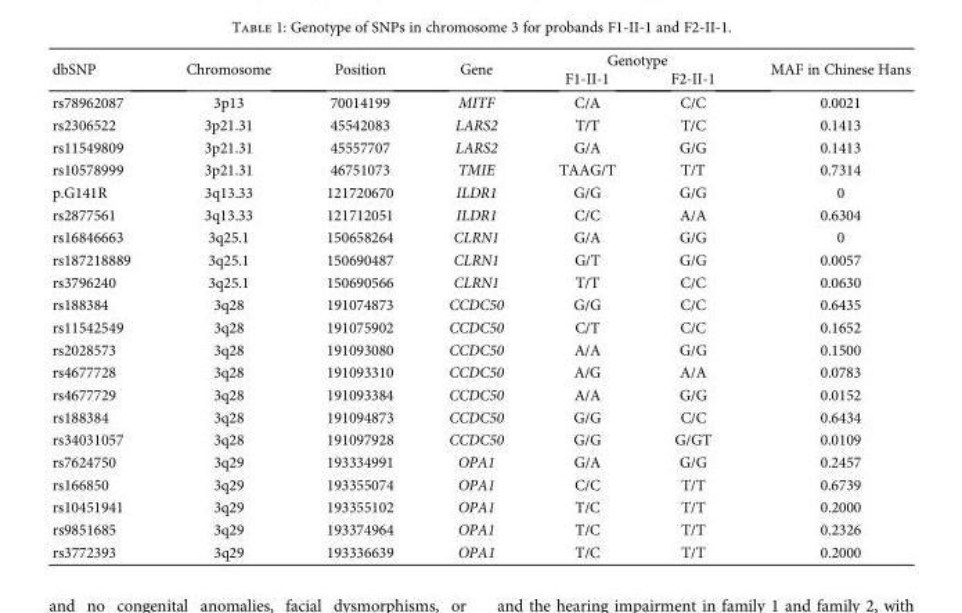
<table><thead><tr><td rowspan="2">dbSNP</td><td rowspan="2">Chromosome</td><td rowspan="2">Position</td><td rowspan="2">Gene</td><td colspan="2">Genotype</td><td rowspan="2">MAF in Chinese Hans</td></tr><tr><td>F1-II-1</td><td>F2-II-1</td></tr></thead><tbody><tr><td>rs78962087</td><td>3p13</td><td>70014199</td><td>MITF</td><td>C/A</td><td>C/C</td><td>0.0021</td></tr><tr><td>rs2306522</td><td>3p21.31</td><td>45542083</td><td>LARS2</td><td>T/T</td><td>T/C</td><td>0.1413</td></tr><tr><td>rs11549809</td><td>3p21.31</td><td>45557707</td><td>LARS2</td><td>G/A</td><td>G/G</td><td>0.1413</td></tr><tr><td>rs10578999</td><td>3p21.31</td><td>46751073</td><td>TMIE</td><td>TAAG/T</td><td>T/T</td><td>0.7314</td></tr><tr><td>p.G141R</td><td>3q13.33</td><td>121720670</td><td>ILDR1</td><td>G/G</td><td>G/G</td><td>0</td></tr><tr><td>rs2877561</td><td>3q13.33</td><td>121712051</td><td>ILDR1</td><td>C/C</td><td>A/A</td><td>0.6304</td></tr><tr><td>rs16846663</td><td>3q25.1</td><td>150658264</td><td>CLRN1</td><td>G/A</td><td>G/G</td><td>0</td></tr><tr><td>rs187218889</td><td>3q25.1</td><td>150690487</td><td>CLRN1</td><td>G/T</td><td>G/G</td><td>0.0057</td></tr><tr><td>rs3796240</td><td>3q25.1</td><td>150690566</td><td>CLRN1</td><td>T/T</td><td>C/C</td><td>0.0630</td></tr><tr><td>rs188384</td><td>3q28</td><td>191074873</td><td>CCDC50</td><td>G/G</td><td>C/C</td><td>0.6435</td></tr><tr><td>rs11542549</td><td>3q28</td><td>191075902</td><td>CCDC50</td><td>C/T</td><td>C/C</td><td>0.1652</td></tr><tr><td>rs2028573</td><td>3q28</td><td>191093080</td><td>CCDC50</td><td>A/A</td><td>G/G</td><td>0.1500</td></tr><tr><td>rs4677728</td><td>3q28</td><td>191093310</td><td>CCDC50</td><td>A/G</td><td>A/A</td><td>0.0783</td></tr><tr><td>rs4677729</td><td>3q28</td><td>191093384</td><td>CCDC50</td><td>A/A</td><td>G/G</td><td>0.0152</td></tr><tr><td>rs188384</td><td>3q28</td><td>191094873</td><td>CCDC50</td><td>G/G</td><td>C/C</td><td>0.6434</td></tr><tr><td>rs34031057</td><td>3q28</td><td>191097928</td><td>CCDC50</td><td>G/G</td><td>G/GT</td><td>0.0109</td></tr><tr><td>rs7624750</td><td>3q29</td><td>193334991</td><td>OPA1</td><td>G/A</td><td>G/G</td><td>0.2457</td></tr><tr><td>rs166850</td><td>3q29</td><td>193355074</td><td>OPA1</td><td>C/C</td><td>T/T</td><td>0.6739</td></tr><tr><td>rs10451941</td><td>3q29</td><td>193355102</td><td>OPA1</td><td>T/C</td><td>T/T</td><td>0.2000</td></tr><tr><td>rs9851685</td><td>3q29</td><td>193374964</td><td>OPA1</td><td>T/C</td><td>T/T</td><td>0.2326</td></tr><tr><td>rs3772393</td><td>3q29</td><td>193336639</td><td>OPA1</td><td>T/C</td><td>T/T</td><td>0.2000</td></tr></tbody></table>